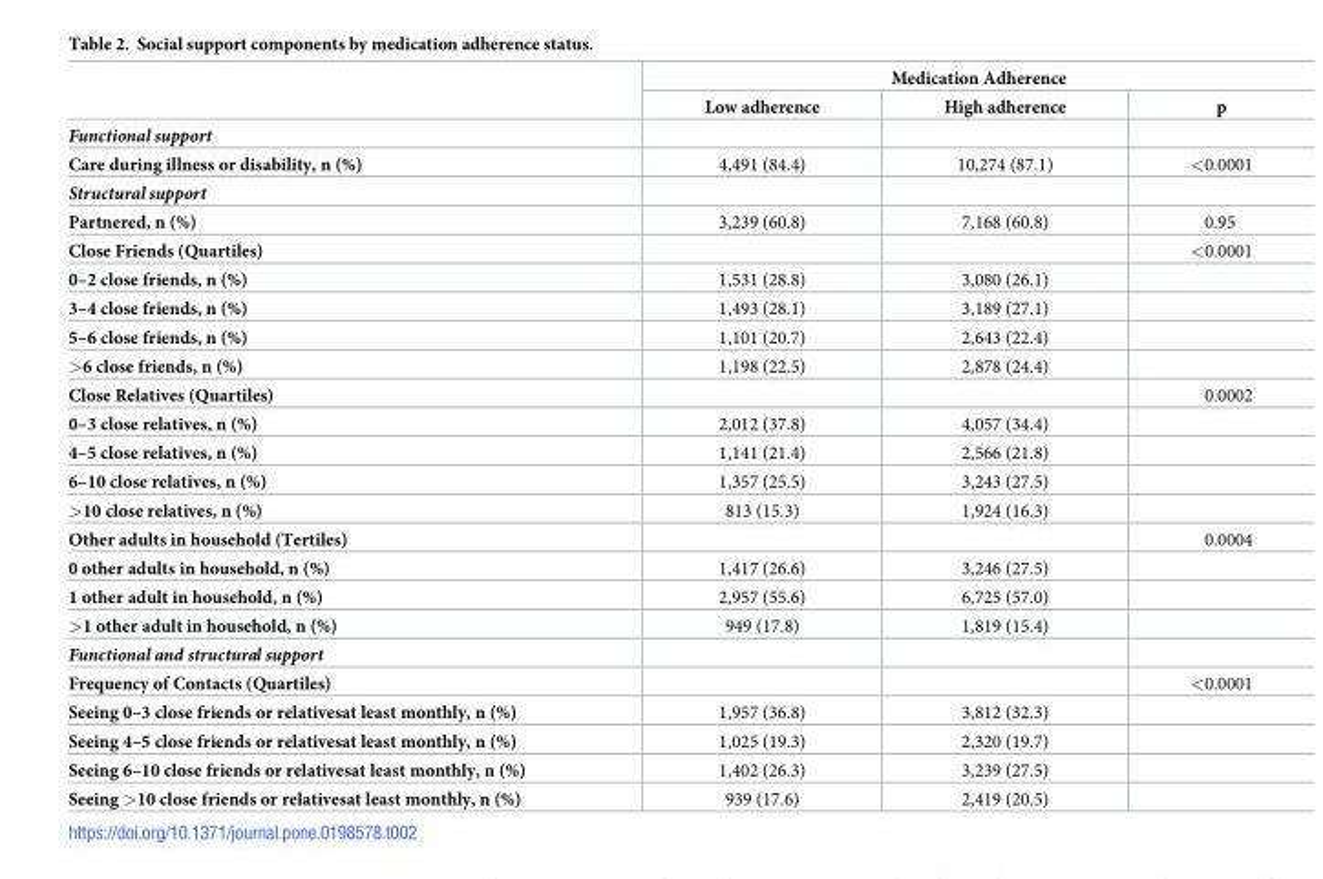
<table><thead><tr><td rowspan="2"></td><td colspan="3">Medication Adherence</td></tr><tr><td>Low adherence</td><td>High adherence</td><td>p</td></tr></thead><tbody><tr><td colspan="4">Functional support</td></tr><tr><td>Care during illness or disability, n (%)</td><td>4,491 (84.4)</td><td>10,274 (87.1)</td><td>&lt;0.0001</td></tr><tr><td colspan="4">Structural support</td></tr><tr><td>Partnered, n (%)</td><td>3,239 (60.8)</td><td>7,168 (60.8)</td><td>0.95</td></tr><tr><td>Close Friends (Quartiles)</td><td></td><td></td><td>&lt;0.0001</td></tr><tr><td>0–2 close friends, n (%)</td><td>1,531 (28.8)</td><td>3,080 (26.1)</td><td></td></tr><tr><td>3–4 close friends, n (%)</td><td>1,493 (28.1)</td><td>3,189 (27.1)</td><td></td></tr><tr><td>5–6 close friends, n (%)</td><td>1,101 (20.7)</td><td>2,643 (22.4)</td><td></td></tr><tr><td>&gt;6 close friends, n (%)</td><td>1,198 (22.5)</td><td>2,878 (24.4)</td><td></td></tr><tr><td>Close Relatives (Quartiles)</td><td></td><td></td><td>0.0002</td></tr><tr><td>0–3 close relatives, n (%)</td><td>2,012 (37.8)</td><td>4,057 (34.4)</td><td></td></tr><tr><td>4–5 close relatives, n (%)</td><td>1,141 (21.4)</td><td>2,566 (21.8)</td><td></td></tr><tr><td>6–10 close relatives, n (%)</td><td>1,357 (25.5)</td><td>3,243 (27.5)</td><td></td></tr><tr><td>&gt;10 close relatives, n (%)</td><td>813 (15.3)</td><td>1,924 (16.3)</td><td></td></tr><tr><td>Other adults in household (Tertiles)</td><td></td><td></td><td>0.0004</td></tr><tr><td>0 other adults in household, n (%)</td><td>1,417 (26.6)</td><td>3,246 (27.5)</td><td></td></tr><tr><td>1 other adult in household, n (%)</td><td>2,957 (55.6)</td><td>6,725 (57.0)</td><td></td></tr><tr><td>&gt;1 other adult in household, n (%)</td><td>949 (17.8)</td><td>1,819 (15.4)</td><td></td></tr><tr><td colspan="4">Functional and structural support</td></tr><tr><td>Frequency of Contacts (Quartiles)</td><td></td><td></td><td>&lt;0.0001</td></tr><tr><td>Seeing 0–3 close friends or relativesat least monthly, n (%)</td><td>1,957 (36.8)</td><td>3,812 (32.3)</td><td></td></tr><tr><td>Seeing 4–5 close friends or relativesat least monthly, n (%)</td><td>1,025 (19.3)</td><td>2,320 (19.7)</td><td></td></tr><tr><td>Seeing 6–10 close friends or relativesat least monthly, n (%)</td><td>1,402 (26.3)</td><td>3,239 (27.5)</td><td></td></tr><tr><td>Seeing &gt;10 close friends or relativesat least monthly, n (%)</td><td>939 (17.6)</td><td>2,419 (20.5)</td><td></td></tr></tbody></table>